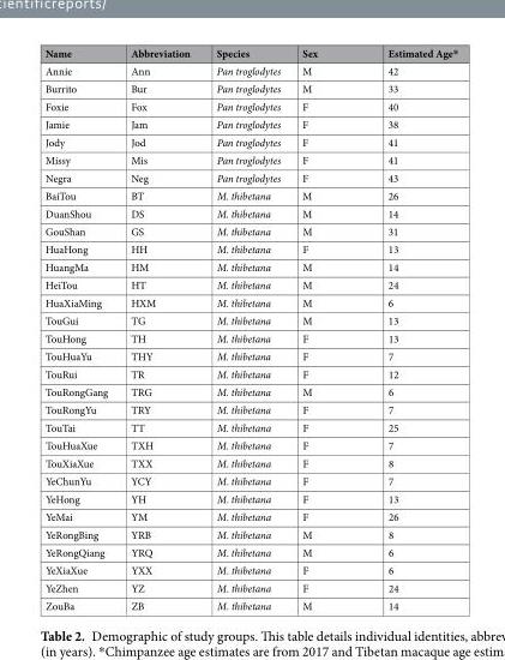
<table><thead><tr><td>Name</td><td>Abbreviation</td><td>Species</td><td>Sex</td><td>Estimated Age*</td></tr></thead><tbody><tr><td>Annie</td><td>Ann</td><td>Pan troglodytes</td><td>M</td><td>42</td></tr><tr><td>Burrito</td><td>Bur</td><td>Pan troglodytes</td><td>M</td><td>33</td></tr><tr><td>Foxie</td><td>Fox</td><td>Pan troglodytes</td><td>F</td><td>40</td></tr><tr><td>Jamie</td><td>Jam</td><td>Pan troglodytes</td><td>F</td><td>38</td></tr><tr><td>Jody</td><td>Jod</td><td>Pan troglodytes</td><td>F</td><td>41</td></tr><tr><td>Missy</td><td>Mis</td><td>Pan troglodytes</td><td>F</td><td>41</td></tr><tr><td>Negra</td><td>Neg</td><td>Pan troglodytes</td><td>F</td><td>43</td></tr><tr><td>BaiTou</td><td>BT</td><td>M. thibetana</td><td>M</td><td>26</td></tr><tr><td>DuanShou</td><td>DS</td><td>M. thibetana</td><td>M</td><td>14</td></tr><tr><td>GouShan</td><td>GS</td><td>M. thibetana</td><td>M</td><td>31</td></tr><tr><td>HuaHong</td><td>HH</td><td>M. thibetana</td><td>F</td><td>13</td></tr><tr><td>HuangMa</td><td>HM</td><td>M. thibetana</td><td>M</td><td>14</td></tr><tr><td>HeiTou</td><td>HT</td><td>M. thibetana</td><td>M</td><td>24</td></tr><tr><td>HuaXiaMing</td><td>HXM</td><td>M. thibetana</td><td>M</td><td>6</td></tr><tr><td>TouGui</td><td>TG</td><td>M. thibetana</td><td>M</td><td>13</td></tr><tr><td>TouHong</td><td>TH</td><td>M. thibetana</td><td>F</td><td>13</td></tr><tr><td>TouHuaYu</td><td>THY</td><td>M. thibetana</td><td>F</td><td>7</td></tr><tr><td>TouRui</td><td>TR</td><td>M. thibetana</td><td>F</td><td>12</td></tr><tr><td>TouRongGang</td><td>TRG</td><td>M. thibetana</td><td>M</td><td>6</td></tr><tr><td>TouRongYu</td><td>TRY</td><td>M. thibetana</td><td>F</td><td>7</td></tr><tr><td>TouTai</td><td>TT</td><td>M. thibetana</td><td>F</td><td>25</td></tr><tr><td>TouHuaXue</td><td>TXH</td><td>M. thibetana</td><td>F</td><td>7</td></tr><tr><td>TouXiaXue</td><td>TXX</td><td>M. thibetana</td><td>F</td><td>8</td></tr><tr><td>YeChunYu</td><td>YCY</td><td>M. thibetana</td><td>F</td><td>7</td></tr><tr><td>YeHong</td><td>YH</td><td>M. thibetana</td><td>F</td><td>13</td></tr><tr><td>YeMai</td><td>YM</td><td>M. thibetana</td><td>F</td><td>26</td></tr><tr><td>YeRongBing</td><td>YRB</td><td>M. thibetana</td><td>M</td><td>8</td></tr><tr><td>YeRongQiang</td><td>YRQ</td><td>M. thibetana</td><td>M</td><td>6</td></tr><tr><td>YeXiaXue</td><td>YXX</td><td>M. thibetana</td><td>F</td><td>6</td></tr><tr><td>YeZhen</td><td>YZ</td><td>M. thibetana</td><td>F</td><td>24</td></tr><tr><td>ZouBa</td><td>ZB</td><td>M. thibetana</td><td>M</td><td>14</td></tr></tbody></table>